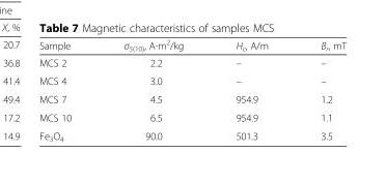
<table><thead><tr><td>Sample</td><td>σ<sub>S(10)</sub>, А∙m<sup>2</sup>/kg</td><td>Н<sub>с</sub>, A/m</td><td>B<sub>r</sub>, mT</td></tr></thead><tbody><tr><td>MCS 2</td><td>2.2</td><td>–</td><td>–</td></tr><tr><td>MCS 4</td><td>3.0</td><td>–</td><td>–</td></tr><tr><td>MCS 7</td><td>4.5</td><td>954.9</td><td>1.2</td></tr><tr><td>MCS 10</td><td>6.5</td><td>954.9</td><td>1.1</td></tr><tr><td>Fe<sub>3</sub>O<sub>4</sub></td><td>90.0</td><td>501.3</td><td>3.5</td></tr></tbody></table>